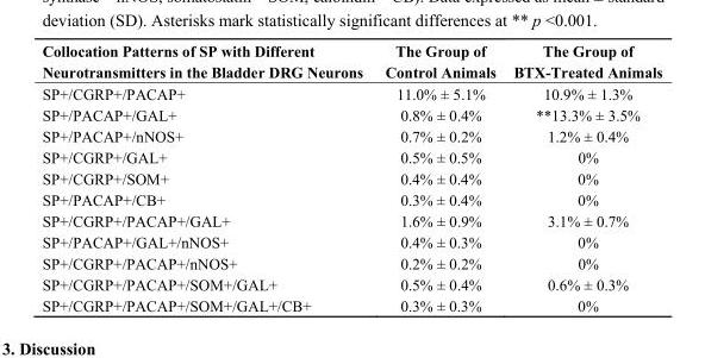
<table><thead><tr><td>Collocation Patterns of SP with Different Neurotransmitters in the Bladder DRG Neurons</td><td>The Group of Control Animals</td><td>The Group of BTX-Treated Animals</td></tr></thead><tbody><tr><td>SP+/CGRP+/PACAP+</td><td>11.0% ± 5.1%</td><td>10.9% ± 1.3%</td></tr><tr><td>SP+/PACAP+/GAL+</td><td>0.8% ± 0.4%</td><td>**13.3% ± 3.5%</td></tr><tr><td>SP+/PACAP+/nNOS+</td><td>0.7% ± 0.2%</td><td>1.2% ± 0.4%</td></tr><tr><td>SP+/CGRP+/GAL+</td><td>0.5% ± 0.5%</td><td>0%</td></tr><tr><td>SP+/CGRP+/SOM+</td><td>0.4% ± 0.4%</td><td>0%</td></tr><tr><td>SP+/PACAP+/CB+</td><td>0.3% ± 0.4%</td><td>0%</td></tr><tr><td>SP+/CGRP+/PACAP+/GAL+</td><td>1.6% ± 0.9%</td><td>3.1% ± 0.7%</td></tr><tr><td>SP+/PACAP+/GAL+/nNOS+</td><td>0.4% ± 0.3%</td><td>0%</td></tr><tr><td>SP+/CGRP+/PACAP+/nNOS+</td><td>0.2% ± 0.2%</td><td>0%</td></tr><tr><td>SP+/CGRP+/PACAP+/SOM+/GAL+</td><td>0.5% ± 0.4%</td><td>0.6% ± 0.3%</td></tr><tr><td>SP+/CGRP+/PACAP+/SOM+/GAL+/CB+</td><td>0.3% ± 0.3%</td><td>0%</td></tr></tbody></table>